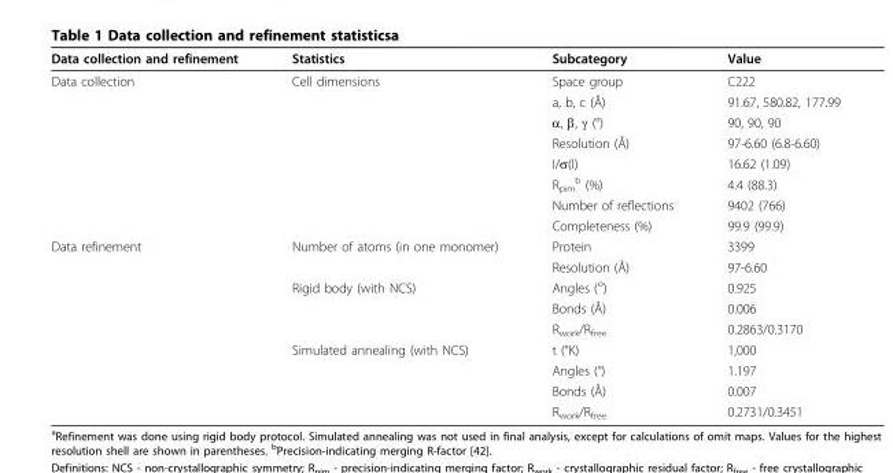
<table><thead><tr><td>Data collection and refinement</td><td>Statistics</td><td>Subcategory</td><td>Value</td></tr></thead><tbody><tr><td rowspan="8">Data collection</td><td>Cell dimensions</td><td>Space group</td><td>C222</td></tr><tr><td></td><td>a, b, c (Å)</td><td>91.67, 580.82, 177.99</td></tr><tr><td></td><td>α, β, γ (°)</td><td>90, 90, 90</td></tr><tr><td></td><td>Resolution (Å)</td><td>97-6.60 (6.8-6.60)</td></tr><tr><td></td><td>I/σ(I)</td><td>16.62 (1.09)</td></tr><tr><td></td><td>R<sub>pim</sub> <sup>b</sup> (%)</td><td>4.4 (88.3)</td></tr><tr><td></td><td>Number of reflections</td><td>9402 (766)</td></tr><tr><td></td><td>Completeness (%)</td><td>99.9 (99.9)</td></tr><tr><td rowspan="9">Data refinement</td><td>Number of atoms (in one monomer)</td><td>Protein</td><td>3399</td></tr><tr><td></td><td>Resolution (Å)</td><td>97-6.60</td></tr><tr><td>Rigid body (with NCS)</td><td>Angles (<sup>o</sup>)</td><td>0.925</td></tr><tr><td></td><td>Bonds (Å)</td><td>0.006</td></tr><tr><td></td><td>R<sub>work</sub>/R<sub>free</sub></td><td>0.2863/0.3170</td></tr><tr><td>Simulated annealing (with NCS)</td><td>t (°K)</td><td>1,000</td></tr><tr><td></td><td>Angles (°)</td><td>1.197</td></tr><tr><td></td><td>Bonds (Å)</td><td>0.007</td></tr><tr><td></td><td>R<sub>work</sub>/R<sub>free</sub></td><td>0.2731/0.3451</td></tr></tbody></table>